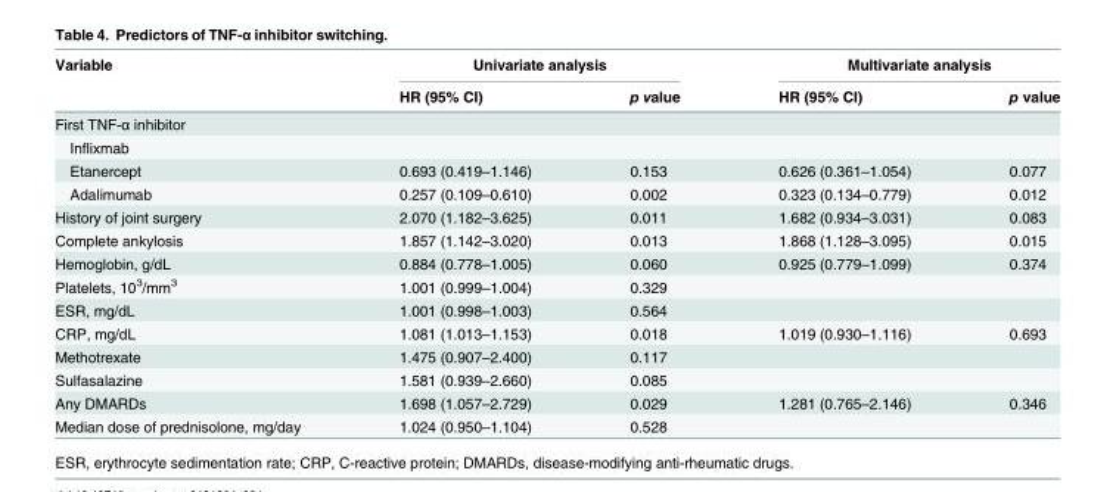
<table><thead><tr><td rowspan="2">Variable</td><td colspan="2">Univariate analysis</td><td colspan="2">Multivariate analysis</td></tr><tr><td>HR (95% CI)</td><td>p value</td><td>HR (95% CI)</td><td>p value</td></tr></thead><tbody><tr><td colspan="5">First TNF-α inhibitor</td></tr><tr><td colspan="5">Inflixmab</td></tr><tr><td>Etanercept</td><td>0.693 (0.419–1.146)</td><td>0.153</td><td>0.626 (0.361–1.054)</td><td>0.077</td></tr><tr><td>Adalimumab</td><td>0.257 (0.109–0.610)</td><td>0.002</td><td>0.323 (0.134–0.779)</td><td>0.012</td></tr><tr><td>History of joint surgery</td><td>2.070 (1.182–3.625)</td><td>0.011</td><td>1.682 (0.934–3.031)</td><td>0.083</td></tr><tr><td>Complete ankylosis</td><td>1.857 (1.142–3.020)</td><td>0.013</td><td>1.868 (1.128–3.095)</td><td>0.015</td></tr><tr><td>Hemoglobin, g/dL</td><td>0.884 (0.778–1.005)</td><td>0.060</td><td>0.925 (0.779–1.099)</td><td>0.374</td></tr><tr><td>Platelets, 10<sup>3</sup>/mm<sup>3</sup></td><td>1.001 (0.999–1.004)</td><td>0.329</td><td></td><td></td></tr><tr><td>ESR, mg/dL</td><td>1.001 (0.998–1.003)</td><td>0.564</td><td></td><td></td></tr><tr><td>CRP, mg/dL</td><td>1.081 (1.013–1.153)</td><td>0.018</td><td>1.019 (0.930–1.116)</td><td>0.693</td></tr><tr><td>Methotrexate</td><td>1.475 (0.907–2.400)</td><td>0.117</td><td></td><td></td></tr><tr><td>Sulfasalazine</td><td>1.581 (0.939–2.660)</td><td>0.085</td><td></td><td></td></tr><tr><td>Any DMARDs</td><td>1.698 (1.057–2.729)</td><td>0.029</td><td>1.281 (0.765–2.146)</td><td>0.346</td></tr><tr><td>Median dose of prednisolone, mg/day</td><td>1.024 (0.950–1.104)</td><td>0.528</td><td></td><td></td></tr></tbody></table>